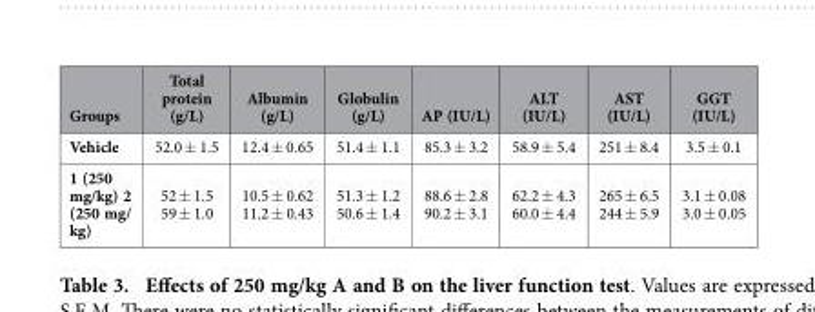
<table><thead><tr><td>Groups</td><td>Total protein (g/L)</td><td>Albumin (g/L)</td><td>Globulin (g/L)</td><td>AP (IU/L)</td><td>ALT (IU/L)</td><td>AST (IU/L)</td><td>GGT (IU/L)</td></tr></thead><tbody><tr><td>Vehicle</td><td>52.0 ± 1.5</td><td>12.4 ± 0.65</td><td>51.4 ± 1.1</td><td>85.3 ± 3.2</td><td>58.9 ± 5.4</td><td>251 ± 8.4</td><td>3.5 ± 0.1</td></tr><tr><td>1 (250 mg/kg) 2 (250 mg/ kg)</td><td>52 ± 1.5 59 ± 1.0</td><td>10.5 ± 0.62 11.2 ± 0.43</td><td>51.3 ± 1.2 50.6 ± 1.4</td><td>88.6 ± 2.8 90.2 ± 3.1</td><td>62.2 ± 4.3 60.0 ± 4.4</td><td>265 ± 6.5 244 ± 5.9</td><td>3.1 ± 0.08 3.0 ± 0.05</td></tr></tbody></table>